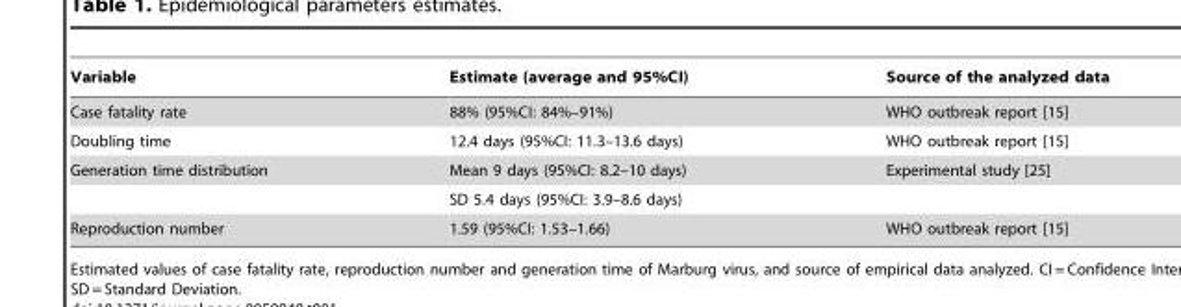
<table><thead><tr><td>Variable</td><td>Estimate (average and 95%CI)</td><td>Source of the analyzed data</td></tr></thead><tbody><tr><td>Case fatality rate</td><td>88% (95%CI: 84%–91%)</td><td>WHO outbreak report [15]</td></tr><tr><td>Doubling time</td><td>12.4 days (95%CI: 11.3–13.6 days)</td><td>WHO outbreak report [15]</td></tr><tr><td rowspan="2">Generation time distribution</td><td>Mean 9 days (95%CI: 8.2–10 days)</td><td>Experimental study [25]</td></tr><tr><td>SD 5.4 days (95%CI: 3.9–8.6 days)</td><td></td></tr><tr><td>Reproduction number</td><td>1.59 (95%CI: 1.53–1.66)</td><td>WHO outbreak report [15]</td></tr></tbody></table>